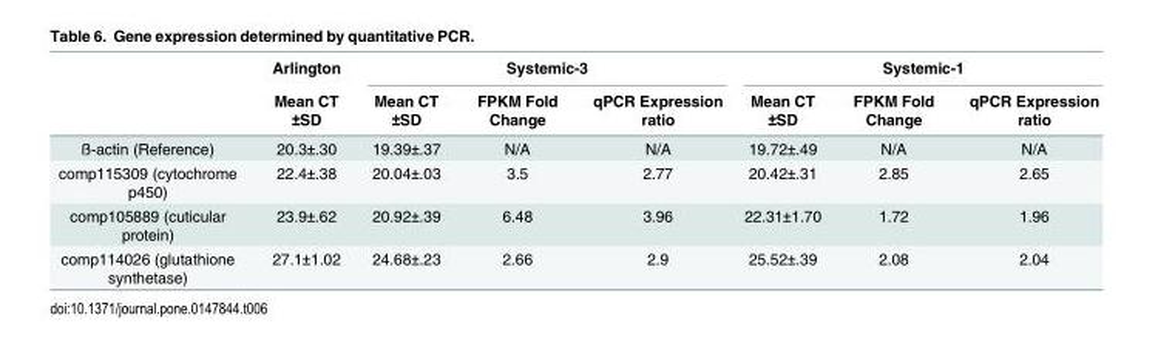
<table><thead><tr><td rowspan="2"></td><td rowspan="2">Arlington Mean CT ±SD</td><td colspan="3">Systemic-3</td><td colspan="3">Systemic-1</td></tr><tr><td>Mean CT ±SD</td><td>FPKM Fold Change</td><td>qPCR Expression ratio</td><td>Mean CT ±SD</td><td>FPKM Fold Change</td><td>qPCR Expression ratio</td></tr></thead><tbody><tr><td>ß-actin (Reference)</td><td>20.3±.30</td><td>19.39±.37</td><td>N/A</td><td>N/A</td><td>19.72±.49</td><td>N/A</td><td>N/A</td></tr><tr><td>comp115309 (cytochrome p450)</td><td>22.4±.38</td><td>20.04±.03</td><td>3.5</td><td>2.77</td><td>20.42±.31</td><td>2.85</td><td>2.65</td></tr><tr><td>comp105889 (cuticular protein)</td><td>23.9±.62</td><td>20.92±.39</td><td>6.48</td><td>3.96</td><td>22.31±1.70</td><td>1.72</td><td>1.96</td></tr><tr><td>comp114026 (glutathione synthetase)</td><td>27.1±1.02</td><td>24.68±.23</td><td>2.66</td><td>2.9</td><td>25.52±.39</td><td>2.08</td><td>2.04</td></tr></tbody></table>